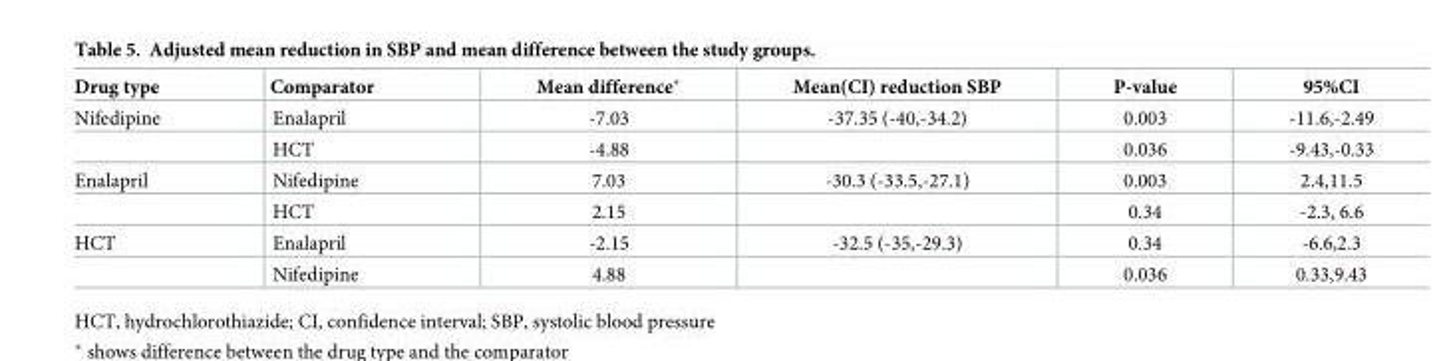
<table><thead><tr><td>Drug type</td><td>Comparator</td><td>Mean difference*</td><td>Mean(CI) reduction SBP</td><td>P-value</td><td>95%CI</td></tr></thead><tbody><tr><td rowspan="2">Nifedipine</td><td>Enalapril</td><td>-7.03</td><td>-37.35 (-40,-34.2)</td><td>0.003</td><td>-11.6,-2.49</td></tr><tr><td>HCT</td><td>-4.88</td><td></td><td>0.036</td><td>-9.43,-0.33</td></tr><tr><td rowspan="2">Enalapril</td><td>Nifedipine</td><td>7.03</td><td>-30.3 (-33.5,-27.1)</td><td>0.003</td><td>2.4,11.5</td></tr><tr><td>HCT</td><td>2.15</td><td></td><td>0.34</td><td>-2.3, 6.6</td></tr><tr><td rowspan="2">HCT</td><td>Enalapril</td><td>-2.15</td><td>-32.5 (-35,-29.3)</td><td>0.34</td><td>-6.6,2.3</td></tr><tr><td>Nifedipine</td><td>4.88</td><td></td><td>0.036</td><td>0.33,9.43</td></tr></tbody></table>